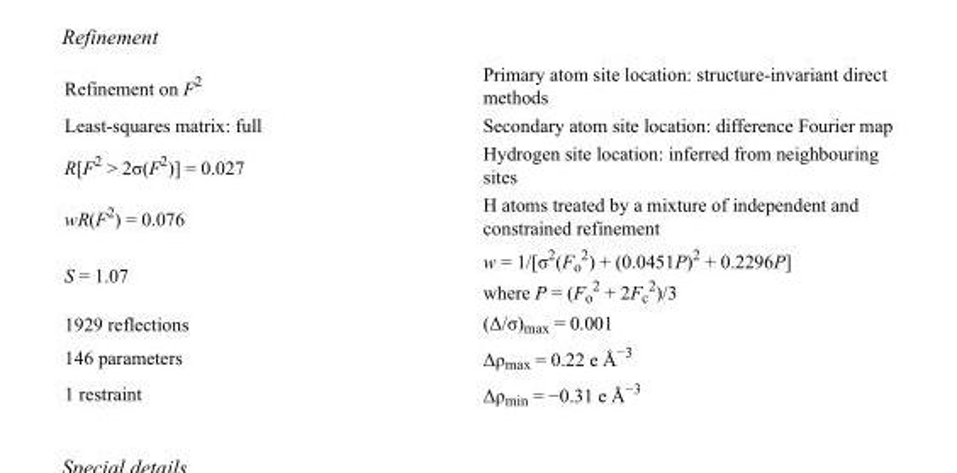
<table><tbody><tr><td>Refinement on F<sup>2</sup></td><td>Primary atom site location: structure-invariant direct methods</td></tr><tr><td>Least-squares matrix: full</td><td>Secondary atom site location: difference Fourier map</td></tr><tr><td>R[F<sup>2</sup> &gt; 2σ(F<sup>2</sup>)] = 0.027</td><td>Hydrogen site location: inferred from neighbouring sites</td></tr><tr><td>wR(F<sup>2</sup>) = 0.076</td><td>H atoms treated by a mixture of independent and constrained refinement</td></tr><tr><td>S = 1.07</td><td>w = 1/[σ<sup>2</sup>(F<sub>o</sub> <sup>2</sup>) + (0.0451P)<sup>2</sup> + 0.2296P] where P = (F<sub>o</sub> <sup>2</sup> + 2F<sub>c</sub> <sup>2</sup>)/3</td></tr><tr><td>1929 reflections</td><td>(Δ/σ)<sub>max</sub> = 0.001</td></tr><tr><td>146 parameters</td><td>Δρ<sub>max</sub> = 0.22 e Å<sup>−3</sup></td></tr><tr><td>1 restraint</td><td>Δρ<sub>min</sub> = −0.31 e Å<sup>−3</sup></td></tr></tbody></table>